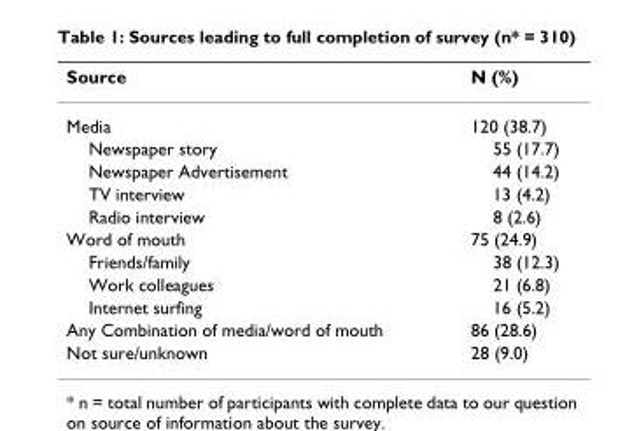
<table><thead><tr><td>Source</td><td>N (%)</td></tr></thead><tbody><tr><td>Media</td><td>120 (38.7)</td></tr><tr><td>Newspaper story</td><td>55 (17.7)</td></tr><tr><td>Newspaper Advertisement</td><td>44 (14.2)</td></tr><tr><td>TV interview</td><td>13 (4.2)</td></tr><tr><td>Radio interview</td><td>8 (2.6)</td></tr><tr><td>Word of mouth</td><td>75 (24.9)</td></tr><tr><td>Friends/family</td><td>38 (12.3)</td></tr><tr><td>Work colleagues</td><td>21 (6.8)</td></tr><tr><td>Internet surfing</td><td>16 (5.2)</td></tr><tr><td>Any Combination of media/word of mouth</td><td>86 (28.6)</td></tr><tr><td>Not sure/unknown</td><td>28 (9.0)</td></tr></tbody></table>